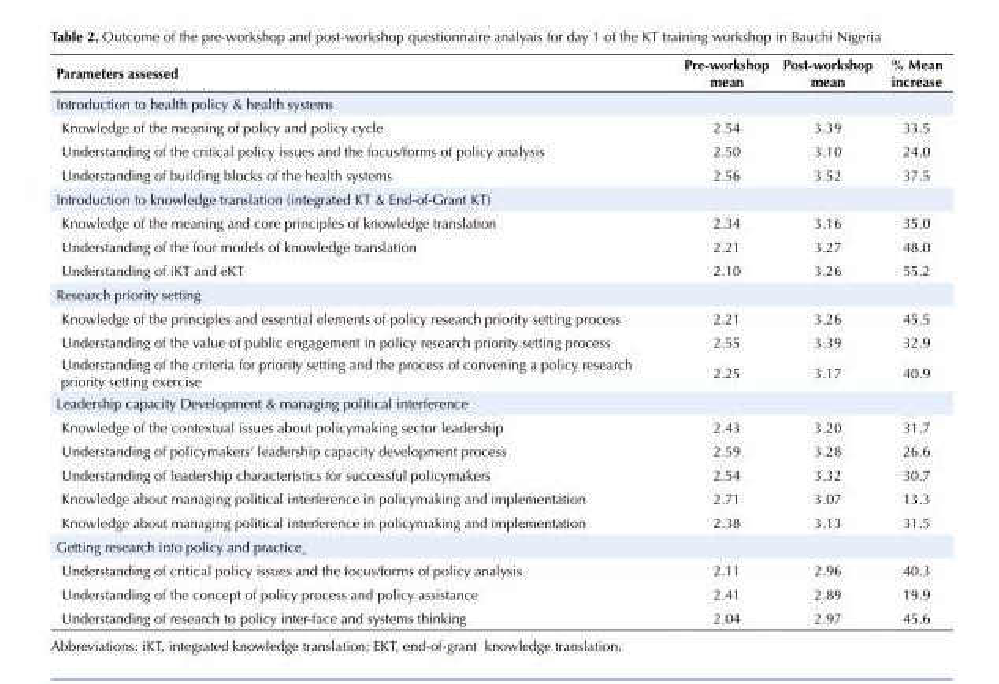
<table><tbody><tr><td>Parameters assessed</td><td>Pre-workshop mean</td><td>Post-workshop mean</td><td>% Mean increase</td></tr><tr><td colspan="4">Introduction to health policy &amp; health systems</td></tr><tr><td>Knowledge of the meaning of policy and policy cycle</td><td>2.54</td><td>3.39</td><td>33.5</td></tr><tr><td>Understanding of the critical policy issues and the focus/forms of policy analysis</td><td>2.50</td><td>3.10</td><td>24.0</td></tr><tr><td>Understanding of building blocks of the health systems</td><td>2.56</td><td>3.52</td><td>37.5</td></tr><tr><td colspan="4">Introduction to knowledge translation (integrated KT &amp; End-of-Grant KT)</td></tr><tr><td>Knowledge of the meaning and core principles of knowledge translation</td><td>2.34</td><td>3.16</td><td>35.0</td></tr><tr><td>Understanding of the four models of knowledge translation</td><td>2.21</td><td>3.27</td><td>48.0</td></tr><tr><td>Understanding of iKT and eKT</td><td>2.10</td><td>3.26</td><td>55.2</td></tr><tr><td colspan="4">Research priority setting</td></tr><tr><td>Knowledge of the principles and essential elements of policy research priority setting process</td><td>2.21</td><td>3.26</td><td>45.5</td></tr><tr><td>Understanding of the value of public engagement in policy research priority setting process</td><td>2.55</td><td>3.39</td><td>32.9</td></tr><tr><td>Understanding of the criteria for priority setting and the process of convening a policy research priority setting exercise</td><td>2.25</td><td>3.17</td><td>40.9</td></tr><tr><td colspan="4">Leadership capacity Development &amp; managing political interference</td></tr><tr><td>Knowledge of the contextual issues about policymaking sector leadership</td><td>2.43</td><td>3.20</td><td>31.7</td></tr><tr><td>Understanding of policymakers’ leadership capacity development process</td><td>2.59</td><td>3.28</td><td>26.6</td></tr><tr><td>Understanding of leadership characteristics for successful policymakers</td><td>2.54</td><td>3.32</td><td>30.7</td></tr><tr><td>Knowledge about managing political interference in policymaking and implementation</td><td>2.71</td><td>3.07</td><td>13.3</td></tr><tr><td>Knowledge about managing political interference in policymaking and implementation</td><td>2.38</td><td>3.13</td><td>31.5</td></tr><tr><td colspan="4">Getting research into policy and practice</td></tr><tr><td>Understanding of critical policy issues and the focus/forms of policy analysis</td><td>2.11</td><td>2.96</td><td>40.3</td></tr><tr><td>Understanding of the concept of policy process and policy assistance</td><td>2.41</td><td>2.89</td><td>19.9</td></tr><tr><td>Understanding of research to policy inter-face and systems thinking</td><td>2.04</td><td>2.97</td><td>45.6</td></tr></tbody></table>